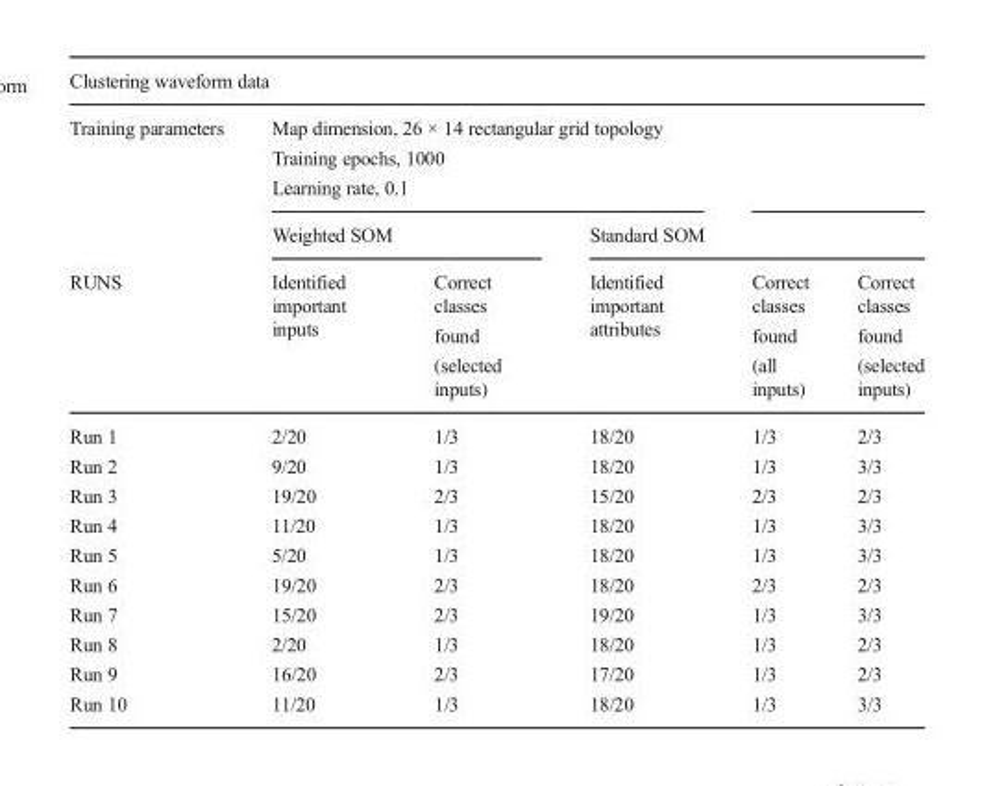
<table><thead><tr><td colspan="6">Clustering waveform data</td></tr><tr><td rowspan="3">Training parameters RUNS</td><td colspan="3">Map dimension, 26 × 14 rectangular grid topology Training epochs, 1000 Learning rate, 0.1</td><td></td><td></td></tr><tr><td colspan="2">Weighted SOM</td><td colspan="3">Standard SOM</td></tr><tr><td>Identified important inputs</td><td>Correct classes found (selected inputs)</td><td>Identified important attributes</td><td>Correct classes found (all inputs)</td><td>Correct classes found (selected inputs)</td></tr></thead><tbody><tr><td>Run 1</td><td>2/20</td><td>1/3</td><td>18/20</td><td>1/3</td><td>2/3</td></tr><tr><td>Run 2</td><td>9/20</td><td>1/3</td><td>18/20</td><td>1/3</td><td>3/3</td></tr><tr><td>Run 3</td><td>19/20</td><td>2/3</td><td>15/20</td><td>2/3</td><td>2/3</td></tr><tr><td>Run 4</td><td>11/20</td><td>1/3</td><td>18/20</td><td>1/3</td><td>3/3</td></tr><tr><td>Run 5</td><td>5/20</td><td>1/3</td><td>18/20</td><td>1/3</td><td>3/3</td></tr><tr><td>Run 6</td><td>19/20</td><td>2/3</td><td>18/20</td><td>2/3</td><td>2/3</td></tr><tr><td>Run 7</td><td>15/20</td><td>2/3</td><td>19/20</td><td>1/3</td><td>3/3</td></tr><tr><td>Run 8</td><td>2/20</td><td>1/3</td><td>18/20</td><td>1/3</td><td>2/3</td></tr><tr><td>Run 9</td><td>16/20</td><td>2/3</td><td>17/20</td><td>1/3</td><td>2/3</td></tr><tr><td>Run 10</td><td>11/20</td><td>1/3</td><td>18/20</td><td>1/3</td><td>3/3</td></tr></tbody></table>